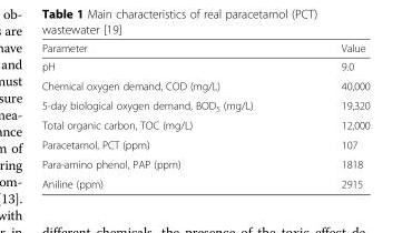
<table><thead><tr><td>Parameter</td><td>Value</td></tr></thead><tbody><tr><td>pH</td><td>9.0</td></tr><tr><td>Chemical oxygen demand, COD (mg/L)</td><td>40,000</td></tr><tr><td>5-day biological oxygen demand, BOD<sub>5</sub> (mg/L)</td><td>19,320</td></tr><tr><td>Total organic carbon, TOC (mg/L)</td><td>12,000</td></tr><tr><td>Paracetamol, PCT (ppm)</td><td>107</td></tr><tr><td>Para-amino phenol, PAP (ppm)</td><td>1818</td></tr><tr><td>Aniline (ppm)</td><td>2915</td></tr></tbody></table>